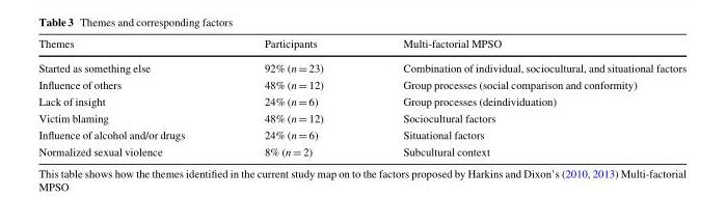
<table><thead><tr><td>Themes</td><td>Participants</td><td>Multi-factorial MPSO</td></tr></thead><tbody><tr><td>Started as something else</td><td>92% (n = 23)</td><td>Combination of individual, sociocultural, and situational factors</td></tr><tr><td>Influence of others</td><td>48% (n = 12)</td><td>Group processes (social comparison and conformity)</td></tr><tr><td>Lack of insight</td><td>24% (n = 6)</td><td>Group processes (deindividuation)</td></tr><tr><td>Victim blaming</td><td>48% (n = 12)</td><td>Sociocultural factors</td></tr><tr><td>Influence of alcohol and/or drugs</td><td>24% (n = 6)</td><td>Situational factors</td></tr><tr><td>Normalized sexual violence</td><td>8% (n = 2)</td><td>Subcultural context</td></tr></tbody></table>